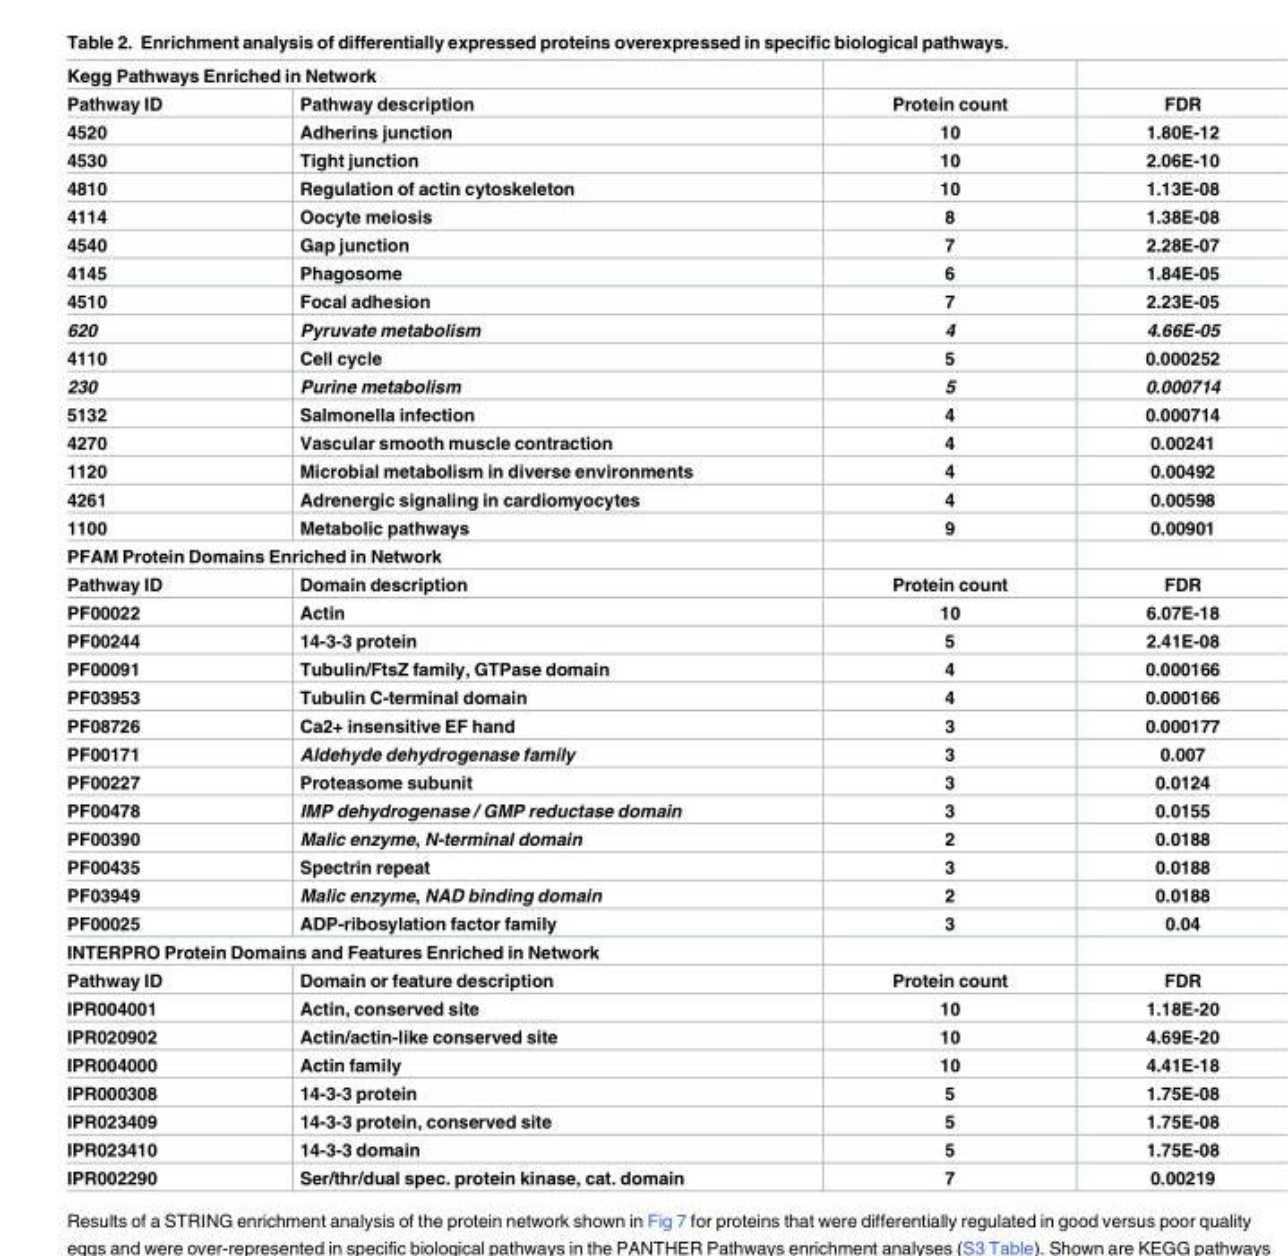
<table><tbody><tr><td colspan="4">Kegg Pathways Enriched in Network</td></tr><tr><td>Pathway ID</td><td>Pathway description</td><td>Protein count</td><td>FDR</td></tr><tr><td>4520</td><td>Adherins junction</td><td>10</td><td>1.80E-12</td></tr><tr><td>4530</td><td>Tight junction</td><td>10</td><td>2.06E-10</td></tr><tr><td>4810</td><td>Regulation of actin cytoskeleton</td><td>10</td><td>1.13E-08</td></tr><tr><td>4114</td><td>Oocyte meiosis</td><td>8</td><td>1.38E-08</td></tr><tr><td>4540</td><td>Gap junction</td><td>7</td><td>2.28E-07</td></tr><tr><td>4145</td><td>Phagosome</td><td>6</td><td>1.84E-05</td></tr><tr><td>4510</td><td>Focal adhesion</td><td>7</td><td>2.23E-05</td></tr><tr><td>620</td><td>Pyruvate metabolism</td><td>4</td><td>4.66E-05</td></tr><tr><td>4110</td><td>Cell cycle</td><td>5</td><td>0.000252</td></tr><tr><td>230</td><td>Purine metabolism</td><td>5</td><td>0.000714</td></tr><tr><td>5132</td><td>Salmonella infection</td><td>4</td><td>0.000714</td></tr><tr><td>4270</td><td>Vascular smooth muscle contraction</td><td>4</td><td>0.00241</td></tr><tr><td>1120</td><td>Microbial metabolism in diverse environments</td><td>4</td><td>0.00492</td></tr><tr><td>4261</td><td>Adrenergic signaling in cardiomyocytes</td><td>4</td><td>0.00598</td></tr><tr><td>1100</td><td>Metabolic pathways</td><td>9</td><td>0.00901</td></tr><tr><td colspan="4">PFAM Protein Domains Enriched in Network</td></tr><tr><td>Pathway ID</td><td>Domain description</td><td>Protein count</td><td>FDR</td></tr><tr><td>PF00022</td><td>Actin</td><td>10</td><td>6.07E-18</td></tr><tr><td>PF00244</td><td>14-3-3 protein</td><td>5</td><td>2.41E-08</td></tr><tr><td>PF00091</td><td>Tubulin/FtsZ family, GTPase domain</td><td>4</td><td>0.000166</td></tr><tr><td>PF03953</td><td>Tubulin C-terminal domain</td><td>4</td><td>0.000166</td></tr><tr><td>PF08726</td><td>Ca2+ insensitive EF hand</td><td>3</td><td>0.000177</td></tr><tr><td>PF00171</td><td>Aldehyde dehydrogenase family</td><td>3</td><td>0.007</td></tr><tr><td>PF00227</td><td>Proteasome subunit</td><td>3</td><td>0.0124</td></tr><tr><td>PF00478</td><td>IMP dehydrogenase / GMP reductase domain</td><td>3</td><td>0.0155</td></tr><tr><td>PF00390</td><td>Malic enzyme, N-terminal domain</td><td>2</td><td>0.0188</td></tr><tr><td>PF00435</td><td>Spectrin repeat</td><td>3</td><td>0.0188</td></tr><tr><td>PF03949</td><td>Malic enzyme, NAD binding domain</td><td>2</td><td>0.0188</td></tr><tr><td>PF00025</td><td>ADP-ribosylation factor family</td><td>3</td><td>0.04</td></tr><tr><td colspan="4">INTERPRO Protein Domains and Features Enriched in Network</td></tr><tr><td>Pathway ID</td><td>Domain or feature description</td><td>Protein count</td><td>FDR</td></tr><tr><td>IPR004001</td><td>Actin, conserved site</td><td>10</td><td>1.18E-20</td></tr><tr><td>IPR020902</td><td>Actin/actin-like conserved site</td><td>10</td><td>4.69E-20</td></tr><tr><td>IPR004000</td><td>Actin family</td><td>10</td><td>4.41E-18</td></tr><tr><td>IPR000308</td><td>14-3-3 protein</td><td>5</td><td>1.75E-08</td></tr><tr><td>IPR023409</td><td>14-3-3 protein, conserved site</td><td>5</td><td>1.75E-08</td></tr><tr><td>IPR023410</td><td>14-3-3 domain</td><td>5</td><td>1.75E-08</td></tr><tr><td>IPR002290</td><td>Ser/thr/dual spec. protein kinase, cat. domain</td><td>7</td><td>0.00219</td></tr></tbody></table>